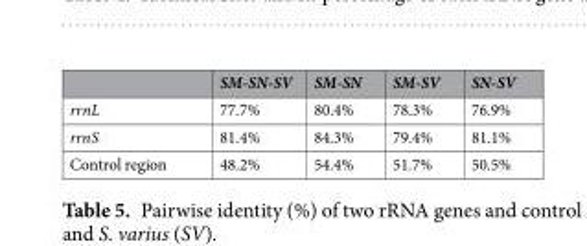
<table><thead><tr><td></td><td>SM-SN-SV</td><td>SM-SN</td><td>SM-SV</td><td>SN-SV</td></tr></thead><tbody><tr><td>rrnL</td><td>77.7%</td><td>80.4%</td><td>78.3%</td><td>76.9%</td></tr><tr><td>rrnS</td><td>81.4%</td><td>84.3%</td><td>79.4%</td><td>81.1%</td></tr><tr><td>Control region</td><td>48.2%</td><td>54.4%</td><td>51.7%</td><td>50.5%</td></tr></tbody></table>